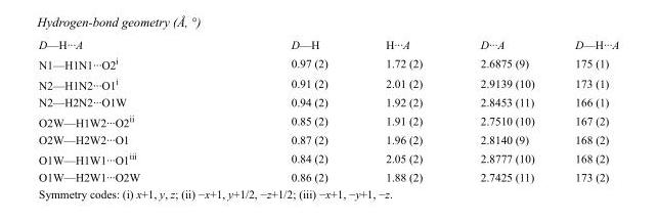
<table><tbody><tr><td>D—H···A</td><td>D—H</td><td>H···A</td><td>D···A</td><td>D—H···A</td></tr><tr><td>N1—H1N1···O2<sup>i</sup></td><td>0.97 (2)</td><td>1.72 (2)</td><td>2.6875 (9)</td><td>175 (1)</td></tr><tr><td>N2—H1N2···O1<sup>i</sup></td><td>0.91 (2)</td><td>2.01 (2)</td><td>2.9139 (10)</td><td>173 (1)</td></tr><tr><td>N2—H2N2···O1W</td><td>0.94 (2)</td><td>1.92 (2)</td><td>2.8453 (11)</td><td>166 (1)</td></tr><tr><td>O2W—H1W2···O2<sup>ii</sup></td><td>0.85 (2)</td><td>1.91 (2)</td><td>2.7510 (10)</td><td>167 (2)</td></tr><tr><td>O2W—H2W2···O1</td><td>0.87 (2)</td><td>1.96 (2)</td><td>2.8140 (9)</td><td>168 (2)</td></tr><tr><td>O1W—H1W1···O1<sup>iii</sup></td><td>0.84 (2)</td><td>2.05 (2)</td><td>2.8777 (10)</td><td>168 (2)</td></tr><tr><td>O1W—H2W1···O2W</td><td>0.86 (2)</td><td>1.88 (2)</td><td>2.7425 (11)</td><td>173 (2)</td></tr></tbody></table>